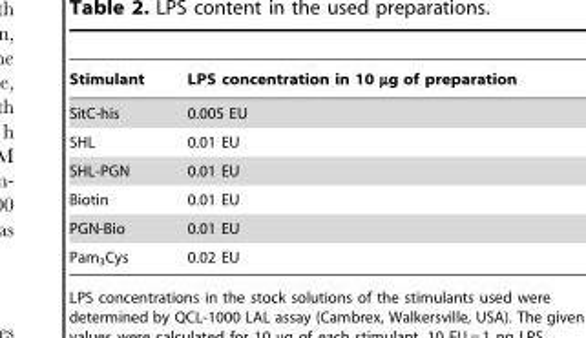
<table><thead><tr><td>Stimulant</td><td>LPS concentration in 10 µg of preparation</td></tr></thead><tbody><tr><td>SitC-his</td><td>0.005 EU</td></tr><tr><td>SHL</td><td>0.01 EU</td></tr><tr><td>SHL-PGN</td><td>0.01 EU</td></tr><tr><td>Biotin</td><td>0.01 EU</td></tr><tr><td>PGN-Bio</td><td>0.01 EU</td></tr><tr><td>Pam<sub>3</sub>Cys</td><td>0.02 EU</td></tr></tbody></table>